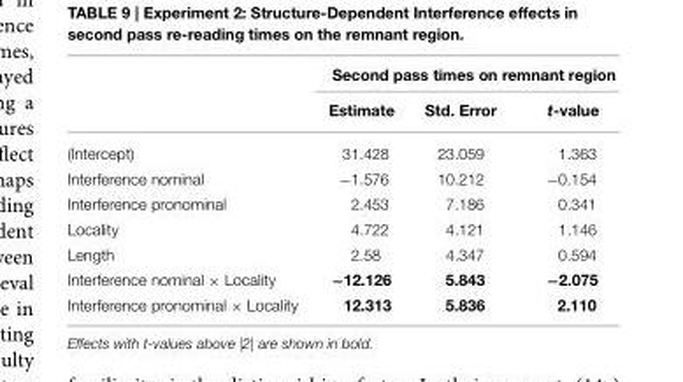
<table><thead><tr><td rowspan="2"></td><td colspan="3">Second pass times on remnant region</td></tr><tr><td>Estimate</td><td>Std. Error</td><td>t-value</td></tr></thead><tbody><tr><td>(Intercept)</td><td>31.428</td><td>23.059</td><td>1.363</td></tr><tr><td>Interference nominal</td><td>−1.576</td><td>10.212</td><td>−0.154</td></tr><tr><td>Interference pronominal</td><td>2.453</td><td>7.186</td><td>0.341</td></tr><tr><td>Locality</td><td>4.722</td><td>4.121</td><td>1.146</td></tr><tr><td>Length</td><td>2.58</td><td>4.347</td><td>0.594</td></tr><tr><td>Interference nominal × Locality</td><td>−12.126</td><td>5.843</td><td>−2.075</td></tr><tr><td>Interference pronominal × Locality</td><td>12.313</td><td>5.836</td><td>2.110</td></tr></tbody></table>